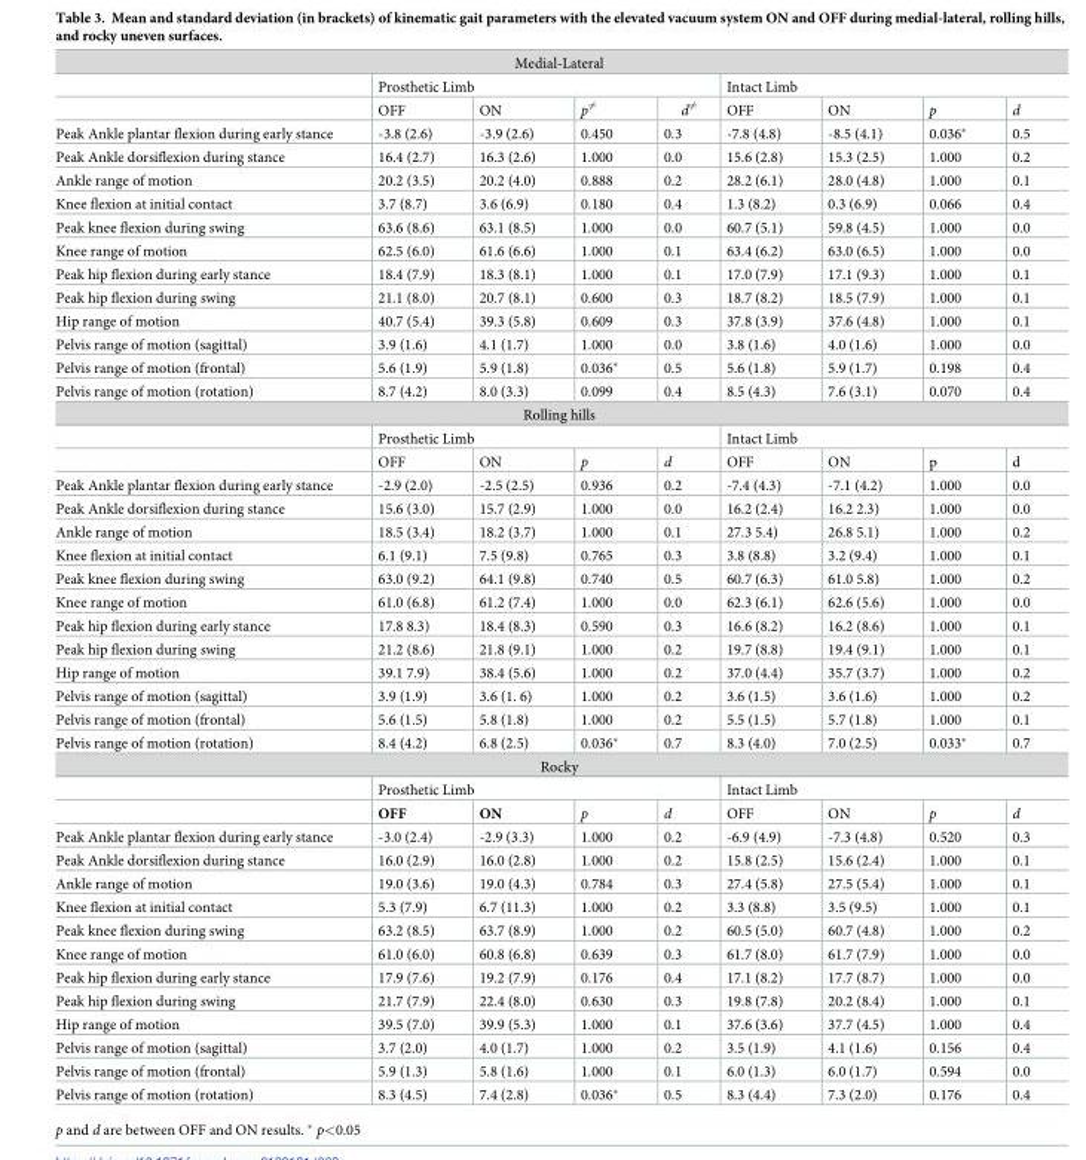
<table><tbody><tr><td colspan="9">Medial-Lateral</td></tr><tr><td></td><td colspan="4">Prosthetic Limb</td><td colspan="4">Intact Limb</td></tr><tr><td></td><td>OFF</td><td>ON</td><td>p6¼</td><td>d6¼</td><td>OFF</td><td>ON</td><td>p</td><td>d</td></tr><tr><td>Peak Ankle plantar flexion during early stance</td><td>-3.8 (2.6)</td><td>-3.9 (2.6)</td><td>0.450</td><td>0.3</td><td>-7.8 (4.8)</td><td>-8.5 (4.1)</td><td>0.036*</td><td>0.5</td></tr><tr><td>Peak Ankle dorsiflexion during stance</td><td>16.4 (2.7)</td><td>16.3 (2.6)</td><td>1.000</td><td>0.0</td><td>15.6 (2.8)</td><td>15.3 (2.5)</td><td>1.000</td><td>0.2</td></tr><tr><td>Ankle range of motion</td><td>20.2 (3.5)</td><td>20.2 (4.0)</td><td>0.888</td><td>0.2</td><td>28.2 (6.1)</td><td>28.0 (4.8)</td><td>1.000</td><td>0.1</td></tr><tr><td>Knee flexion at initial contact</td><td>3.7 (8.7)</td><td>3.6 (6.9)</td><td>0.180</td><td>0.4</td><td>1.3 (8.2)</td><td>0.3 (6.9)</td><td>0.066</td><td>0.4</td></tr><tr><td>Peak knee flexion during swing</td><td>63.6 (8.6)</td><td>63.1 (8.5)</td><td>1.000</td><td>0.0</td><td>60.7 (5.1)</td><td>59.8 (4.5)</td><td>1.000</td><td>0.0</td></tr><tr><td>Knee range of motion</td><td>62.5 (6.0)</td><td>61.6 (6.6)</td><td>1.000</td><td>0.1</td><td>63.4 (6.2)</td><td>63.0 (6.5)</td><td>1.000</td><td>0.0</td></tr><tr><td>Peak hip flexion during early stance</td><td>18.4 (7.9)</td><td>18.3 (8.1)</td><td>1.000</td><td>0.1</td><td>17.0 (7.9)</td><td>17.1 (9.3)</td><td>1.000</td><td>0.1</td></tr><tr><td>Peak hip flexion during swing</td><td>21.1 (8.0)</td><td>20.7 (8.1)</td><td>0.600</td><td>0.3</td><td>18.7 (8.2)</td><td>18.5 (7.9)</td><td>1.000</td><td>0.1</td></tr><tr><td>Hip range of motion</td><td>40.7 (5.4)</td><td>39.3 (5.8)</td><td>0.609</td><td>0.3</td><td>37.8 (3.9)</td><td>37.6 (4.8)</td><td>1.000</td><td>0.1</td></tr><tr><td>Pelvis range of motion (sagittal)</td><td>3.9 (1.6)</td><td>4.1 (1.7)</td><td>1.000</td><td>0.0</td><td>3.8 (1.6)</td><td>4.0 (1.6)</td><td>1.000</td><td>0.0</td></tr><tr><td>Pelvis range of motion (frontal)</td><td>5.6 (1.9)</td><td>5.9 (1.8)</td><td>0.036*</td><td>0.5</td><td>5.6 (1.8)</td><td>5.9 (1.7)</td><td>0.198</td><td>0.4</td></tr><tr><td>Pelvis range of motion (rotation)</td><td>8.7 (4.2)</td><td>8.0 (3.3)</td><td>0.099</td><td>0.4</td><td>8.5 (4.3)</td><td>7.6 (3.1)</td><td>0.070</td><td>0.4</td></tr><tr><td colspan="9">Rolling hills</td></tr><tr><td></td><td colspan="4">Prosthetic Limb</td><td colspan="4">Intact Limb</td></tr><tr><td></td><td>OFF</td><td>ON</td><td>p</td><td>d</td><td>OFF</td><td>ON</td><td>p</td><td>d</td></tr><tr><td>Peak Ankle plantar flexion during early stance</td><td>-2.9 (2.0)</td><td>-2.5 (2.5)</td><td>0.936</td><td>0.2</td><td>-7.4 (4.3)</td><td>-7.1 (4.2)</td><td>1.000</td><td>0.0</td></tr><tr><td>Peak Ankle dorsiflexion during stance</td><td>15.6 (3.0)</td><td>15.7 (2.9)</td><td>1.000</td><td>0.0</td><td>16.2 (2.4)</td><td>16.2 2.3)</td><td>1.000</td><td>0.0</td></tr><tr><td>Ankle range of motion</td><td>18.5 (3.4)</td><td>18.2 (3.7)</td><td>1.000</td><td>0.1</td><td>27.3 5.4)</td><td>26.8 5.1)</td><td>1.000</td><td>0.2</td></tr><tr><td>Knee flexion at initial contact</td><td>6.1 (9.1)</td><td>7.5 (9.8)</td><td>0.765</td><td>0.3</td><td>3.8 (8.8)</td><td>3.2 (9.4)</td><td>1.000</td><td>0.1</td></tr><tr><td>Peak knee flexion during swing</td><td>63.0 (9.2)</td><td>64.1 (9.8)</td><td>0.740</td><td>0.5</td><td>60.7 (6.3)</td><td>61.0 5.8)</td><td>1.000</td><td>0.2</td></tr><tr><td>Knee range of motion</td><td>61.0 (6.8)</td><td>61.2 (7.4)</td><td>1.000</td><td>0.0</td><td>62.3 (6.1)</td><td>62.6 (5.6)</td><td>1.000</td><td>0.0</td></tr><tr><td>Peak hip flexion during early stance</td><td>17.8 8.3)</td><td>18.4 (8.3)</td><td>0.590</td><td>0.3</td><td>16.6 (8.2)</td><td>16.2 (8.6)</td><td>1.000</td><td>0.1</td></tr><tr><td>Peak hip flexion during swing</td><td>21.2 (8.6)</td><td>21.8 (9.1)</td><td>1.000</td><td>0.2</td><td>19.7 (8.8)</td><td>19.4 (9.1)</td><td>1.000</td><td>0.1</td></tr><tr><td>Hip range of motion</td><td>39.1 7.9)</td><td>38.4 (5.6)</td><td>1.000</td><td>0.2</td><td>37.0 (4.4)</td><td>35.7 (3.7)</td><td>1.000</td><td>0.2</td></tr><tr><td>Pelvis range of motion (sagittal)</td><td>3.9 (1.9)</td><td>3.6 (1. 6)</td><td>1.000</td><td>0.2</td><td>3.6 (1.5)</td><td>3.6 (1.6)</td><td>1.000</td><td>0.2</td></tr><tr><td>Pelvis range of motion (frontal)</td><td>5.6 (1.5)</td><td>5.8 (1.8)</td><td>1.000</td><td>0.2</td><td>5.5 (1.5)</td><td>5.7 (1.8)</td><td>1.000</td><td>0.1</td></tr><tr><td>Pelvis range of motion (rotation)</td><td>8.4 (4.2)</td><td>6.8 (2.5)</td><td>0.036*</td><td>0.7</td><td>8.3 (4.0)</td><td>7.0 (2.5)</td><td>0.033*</td><td>0.7</td></tr><tr><td colspan="9">Rocky</td></tr><tr><td></td><td colspan="4">Prosthetic Limb</td><td colspan="4">Intact Limb</td></tr><tr><td></td><td>OFF</td><td>ON</td><td>p</td><td>d</td><td>OFF</td><td>ON</td><td>p</td><td>d</td></tr><tr><td>Peak Ankle plantar flexion during early stance</td><td>-3.0 (2.4)</td><td>-2.9 (3.3)</td><td>1.000</td><td>0.2</td><td>-6.9 (4.9)</td><td>-7.3 (4.8)</td><td>0.520</td><td>0.3</td></tr><tr><td>Peak Ankle dorsiflexion during stance</td><td>16.0 (2.9)</td><td>16.0 (2.8)</td><td>1.000</td><td>0.2</td><td>15.8 (2.5)</td><td>15.6 (2.4)</td><td>1.000</td><td>0.1</td></tr><tr><td>Ankle range of motion</td><td>19.0 (3.6)</td><td>19.0 (4.3)</td><td>0.784</td><td>0.3</td><td>27.4 (5.8)</td><td>27.5 (5.4)</td><td>1.000</td><td>0.1</td></tr><tr><td>Knee flexion at initial contact</td><td>5.3 (7.9)</td><td>6.7 (11.3)</td><td>1.000</td><td>0.2</td><td>3.3 (8.8)</td><td>3.5 (9.5)</td><td>1.000</td><td>0.1</td></tr><tr><td>Peak knee flexion during swing</td><td>63.2 (8.5)</td><td>63.7 (8.9)</td><td>1.000</td><td>0.2</td><td>60.5 (5.0)</td><td>60.7 (4.8)</td><td>1.000</td><td>0.2</td></tr><tr><td>Knee range of motion</td><td>61.0 (6.0)</td><td>60.8 (6.8)</td><td>0.639</td><td>0.3</td><td>61.7 (8.0)</td><td>61.7 (7.9)</td><td>1.000</td><td>0.0</td></tr><tr><td>Peak hip flexion during early stance</td><td>17.9 (7.6)</td><td>19.2 (7.9)</td><td>0.176</td><td>0.4</td><td>17.1 (8.2)</td><td>17.7 (8.7)</td><td>1.000</td><td>0.0</td></tr><tr><td>Peak hip flexion during swing</td><td>21.7 (7.9)</td><td>22.4 (8.0)</td><td>0.630</td><td>0.3</td><td>19.8 (7.8)</td><td>20.2 (8.4)</td><td>1.000</td><td>0.1</td></tr><tr><td>Hip range of motion</td><td>39.5 (7.0)</td><td>39.9 (5.3)</td><td>1.000</td><td>0.1</td><td>37.6 (3.6)</td><td>37.7 (4.5)</td><td>1.000</td><td>0.4</td></tr><tr><td>Pelvis range of motion (sagittal)</td><td>3.7 (2.0)</td><td>4.0 (1.7)</td><td>1.000</td><td>0.2</td><td>3.5 (1.9)</td><td>4.1 (1.6)</td><td>0.156</td><td>0.4</td></tr><tr><td>Pelvis range of motion (frontal)</td><td>5.9 (1.3)</td><td>5.8 (1.6)</td><td>1.000</td><td>0.1</td><td>6.0 (1.3)</td><td>6.0 (1.7)</td><td>0.594</td><td>0.0</td></tr><tr><td>Pelvis range of motion (rotation)</td><td>8.3 (4.5)</td><td>7.4 (2.8)</td><td>0.036*</td><td>0.5</td><td>8.3 (4.4)</td><td>7.3 (2.0)</td><td>0.176</td><td>0.4</td></tr></tbody></table>